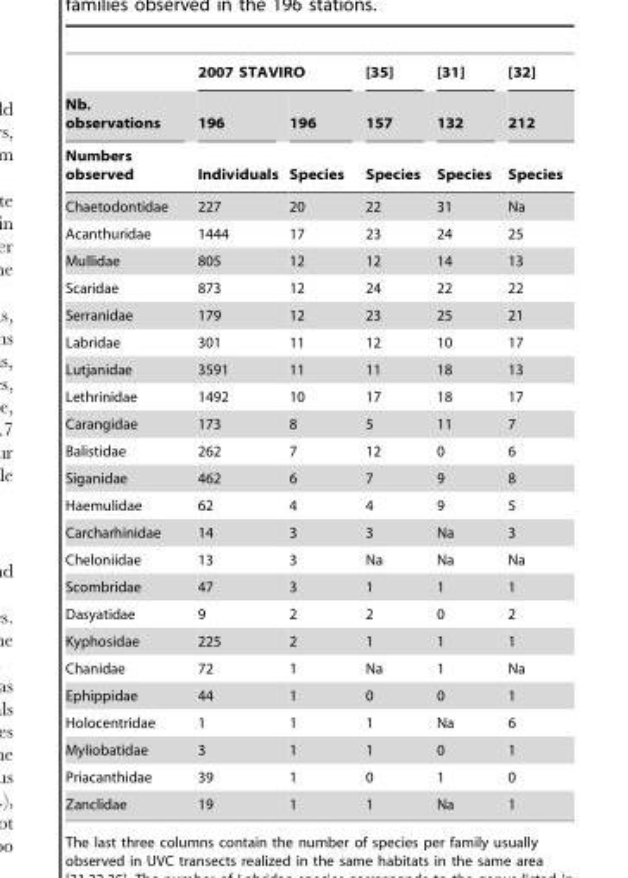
<table><thead><tr><td rowspan="3">Nb. observations Numbers observed</td><td colspan="2">2007 STAVIRO</td><td rowspan="3">[35] 157 Species</td><td rowspan="3">[31] 132 Species</td><td rowspan="3">[32] 212 Species</td></tr><tr><td rowspan="2">196 Individuals</td><td rowspan="2">196 Species</td></tr><tr></tr></thead><tbody><tr><td>Chaetodontidae</td><td>227</td><td>20</td><td>22</td><td>31</td><td>Na</td></tr><tr><td>Acanthuridae</td><td>1444</td><td>17</td><td>23</td><td>24</td><td>25</td></tr><tr><td>Mullidae</td><td>805</td><td>12</td><td>12</td><td>14</td><td>13</td></tr><tr><td>Scaridae</td><td>873</td><td>12</td><td>24</td><td>22</td><td>22</td></tr><tr><td>Serranidae</td><td>179</td><td>12</td><td>23</td><td>25</td><td>21</td></tr><tr><td>Labridae</td><td>301</td><td>11</td><td>12</td><td>10</td><td>17</td></tr><tr><td>Lutjanidae</td><td>3591</td><td>11</td><td>11</td><td>18</td><td>13</td></tr><tr><td>Lethrinidae</td><td>1492</td><td>10</td><td>17</td><td>18</td><td>17</td></tr><tr><td>Carangidae</td><td>173</td><td>8</td><td>5</td><td>11</td><td>7</td></tr><tr><td>Balistidae</td><td>262</td><td>7</td><td>12</td><td>0</td><td>6</td></tr><tr><td>Siganidae</td><td>462</td><td>6</td><td>7</td><td>9</td><td>8</td></tr><tr><td>Haemulidae</td><td>62</td><td>4</td><td>4</td><td>9</td><td>5</td></tr><tr><td>Carcharhinidae</td><td>14</td><td>3</td><td>3</td><td>Na</td><td>3</td></tr><tr><td>Cheloniidae</td><td>13</td><td>3</td><td>Na</td><td>Na</td><td>Na</td></tr><tr><td>Scombridae</td><td>47</td><td>3</td><td>1</td><td>1</td><td>1</td></tr><tr><td>Dasyatidae</td><td>9</td><td>2</td><td>2</td><td>0</td><td>2</td></tr><tr><td>Kyphosidae</td><td>225</td><td>2</td><td>1</td><td>1</td><td>1</td></tr><tr><td>Chanidae</td><td>72</td><td>1</td><td>Na</td><td>1</td><td>Na</td></tr><tr><td>Ephippidae</td><td>44</td><td>1</td><td>0</td><td>0</td><td>1</td></tr><tr><td>Holocentridae</td><td>1</td><td>1</td><td>1</td><td>Na</td><td>6</td></tr><tr><td>Myliobatidae</td><td>3</td><td>1</td><td>1</td><td>0</td><td>1</td></tr><tr><td>Priacanthidae</td><td>39</td><td>1</td><td>0</td><td>1</td><td>0</td></tr><tr><td>Zanclidae</td><td>19</td><td>1</td><td>1</td><td>Na</td><td>1</td></tr></tbody></table>